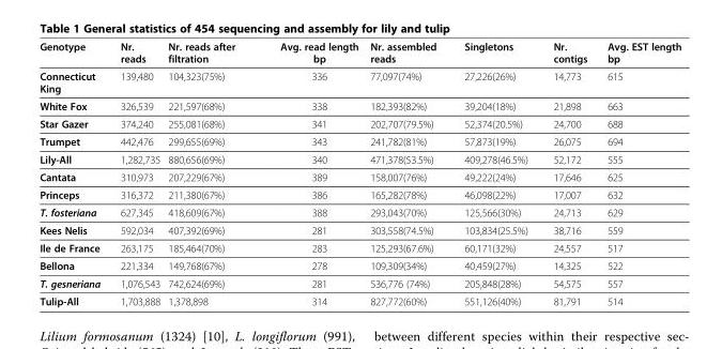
<table><thead><tr><td>Genotype</td><td>Nr. reads</td><td>Nr. reads after filtration</td><td>Avg. read length bp</td><td>Nr. assembled reads</td><td>Singletons</td><td>Nr. contigs</td><td>Avg. EST length bp</td></tr></thead><tbody><tr><td>Connecticut King</td><td>139,480</td><td>104,323(75%)</td><td>336</td><td>77,097(74%)</td><td>27,226(26%)</td><td>14,773</td><td>615</td></tr><tr><td>White Fox</td><td>326,539</td><td>221,597(68%)</td><td>338</td><td>182,393(82%)</td><td>39,204(18%)</td><td>21,898</td><td>663</td></tr><tr><td>Star Gazer</td><td>374,240</td><td>255,081(68%)</td><td>341</td><td>202,707(79.5%)</td><td>52,374(20.5%)</td><td>24,700</td><td>688</td></tr><tr><td>Trumpet</td><td>442,476</td><td>299,655(69%)</td><td>343</td><td>241,782(81%)</td><td>57,873(19%)</td><td>26,075</td><td>694</td></tr><tr><td>Lily-All</td><td>1,282,735</td><td>880,656(69%)</td><td>340</td><td>471,378(53.5%)</td><td>409,278(46.5%)</td><td>52,172</td><td>555</td></tr><tr><td>Cantata</td><td>310,973</td><td>207,229(67%)</td><td>389</td><td>158,007(76%)</td><td>49,222(24%)</td><td>17,646</td><td>625</td></tr><tr><td>Princeps</td><td>316,372</td><td>211,380(67%)</td><td>386</td><td>165,282(78%)</td><td>46,098(22%)</td><td>17,007</td><td>632</td></tr><tr><td>T. fosteriana</td><td>627,345</td><td>418,609(67%)</td><td>388</td><td>293,043(70%)</td><td>125,566(30%)</td><td>24,713</td><td>629</td></tr><tr><td>Kees Nelis</td><td>592,034</td><td>407,392(69%)</td><td>281</td><td>303,558(74.5%)</td><td>103,834(25.5%)</td><td>38,716</td><td>559</td></tr><tr><td>Ile de France</td><td>263,175</td><td>185,464(70%)</td><td>283</td><td>125,293(67.6%)</td><td>60,171(32%)</td><td>24,557</td><td>517</td></tr><tr><td>Bellona</td><td>221,334</td><td>149,768(67%)</td><td>278</td><td>109,309(34%)</td><td>40,459(27%)</td><td>14,325</td><td>522</td></tr><tr><td>T. gesneriana</td><td>1,076,543</td><td>742,624(69%)</td><td>281</td><td>536,776 (74%)</td><td>205,848(28%)</td><td>54,575</td><td>557</td></tr><tr><td>Tulip-All</td><td>1,703,888</td><td>1,378,898</td><td>314</td><td>827,772(60%)</td><td>551,126(40%)</td><td>81,791</td><td>514</td></tr></tbody></table>